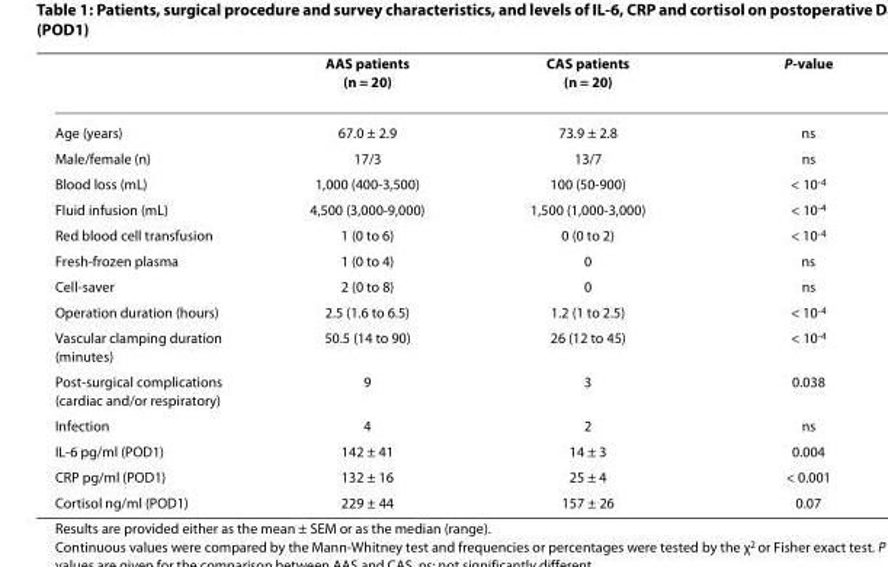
<table><thead><tr><td></td><td>AAS patients (n = 20)</td><td>CAS patients (n = 20)</td><td>P-value</td></tr></thead><tbody><tr><td>Age (years)</td><td>67.0 ± 2.9</td><td>73.9 ± 2.8</td><td>ns</td></tr><tr><td>Male/female (n)</td><td>17/3</td><td>13/7</td><td>ns</td></tr><tr><td>Blood loss (mL)</td><td>1,000 (400-3,500)</td><td>100 (50-900)</td><td>&lt; 10<sup>-4</sup></td></tr><tr><td>Fluid infusion (mL)</td><td>4,500 (3,000-9,000)</td><td>1,500 (1,000-3,000)</td><td>&lt; 10<sup>-4</sup></td></tr><tr><td>Red blood cell transfusion</td><td>1 (0 to 6)</td><td>0 (0 to 2)</td><td>&lt; 10<sup>-4</sup></td></tr><tr><td>Fresh-frozen plasma</td><td>1 (0 to 4)</td><td>0</td><td>ns</td></tr><tr><td>Cell-saver</td><td>2 (0 to 8)</td><td>0</td><td>ns</td></tr><tr><td>Operation duration (hours)</td><td>2.5 (1.6 to 6.5)</td><td>1.2 (1 to 2.5)</td><td>&lt; 10<sup>-4</sup></td></tr><tr><td>Vascular clamping duration (minutes)</td><td>50.5 (14 to 90)</td><td>26 (12 to 45)</td><td>&lt; 10<sup>-4</sup></td></tr><tr><td>Post-surgical complications (cardiac and/or respiratory)</td><td>9</td><td>3</td><td>0.038</td></tr><tr><td>Infection</td><td>4</td><td>2</td><td>ns</td></tr><tr><td>IL-6 pg/ml (POD1)</td><td>142 ± 41</td><td>14 ± 3</td><td>0.004</td></tr><tr><td>CRP pg/ml (POD1)</td><td>132 ± 16</td><td>25 ± 4</td><td>&lt; 0.001</td></tr><tr><td>Cortisol ng/ml (POD1)</td><td>229 ± 44</td><td>157 ± 26</td><td>0.07</td></tr></tbody></table>